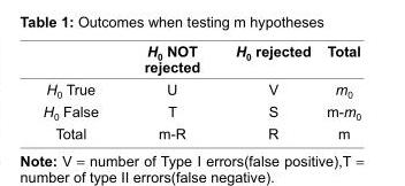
<table><thead><tr><td></td><td>H<sub>0</sub> NOT rejected</td><td>H<sub>0</sub> rejected</td><td>Total</td></tr></thead><tbody><tr><td>H<sub>0</sub> True</td><td>U</td><td>V</td><td>m<sub>0</sub></td></tr><tr><td>H<sub>0</sub> False</td><td>T</td><td>S</td><td>m-m<sub>0</sub></td></tr><tr><td>Total</td><td>m-R</td><td>R</td><td>m</td></tr></tbody></table>